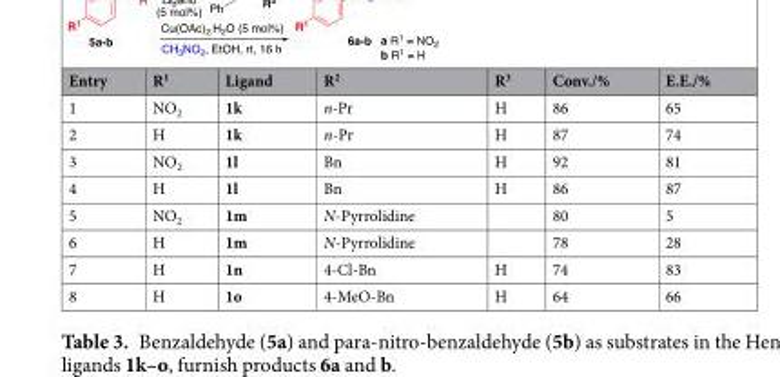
<table><thead><tr><td>Entry</td><td>R<sup>1</sup></td><td>Ligand</td><td>R<sup>2</sup></td><td>R<sup>3</sup></td><td>Conv./%</td><td>E.E./%</td></tr></thead><tbody><tr><td>1</td><td>NO<sub>2</sub></td><td>1k</td><td>n-Pr</td><td>H</td><td>86</td><td>65</td></tr><tr><td>2</td><td>H</td><td>1k</td><td>n-Pr</td><td>H</td><td>87</td><td>74</td></tr><tr><td>3</td><td>NO<sub>2</sub></td><td>1l</td><td>Bn</td><td>H</td><td>92</td><td>81</td></tr><tr><td>4</td><td>H</td><td>1l</td><td>Bn</td><td>H</td><td>86</td><td>87</td></tr><tr><td>5</td><td>NO<sub>2</sub></td><td>1m</td><td>N-Pyrrolidine</td><td></td><td>80</td><td>5</td></tr><tr><td>6</td><td>H</td><td>1m</td><td>N-Pyrrolidine</td><td></td><td>78</td><td>28</td></tr><tr><td>7</td><td>H</td><td>1n</td><td>4-Cl-Bn</td><td>H</td><td>74</td><td>83</td></tr><tr><td>8</td><td>H</td><td>1o</td><td>4-MeO-Bn</td><td>H</td><td>64</td><td>66</td></tr></tbody></table>